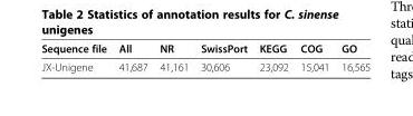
<table><thead><tr><td>Sequence file</td><td>All</td><td>NR</td><td>SwissPort</td><td>KEGG</td><td>COG</td><td>GO</td></tr></thead><tbody><tr><td>JX-Unigene</td><td>41,687</td><td>41,161</td><td>30,606</td><td>23,092</td><td>15,041</td><td>16,565</td></tr></tbody></table>